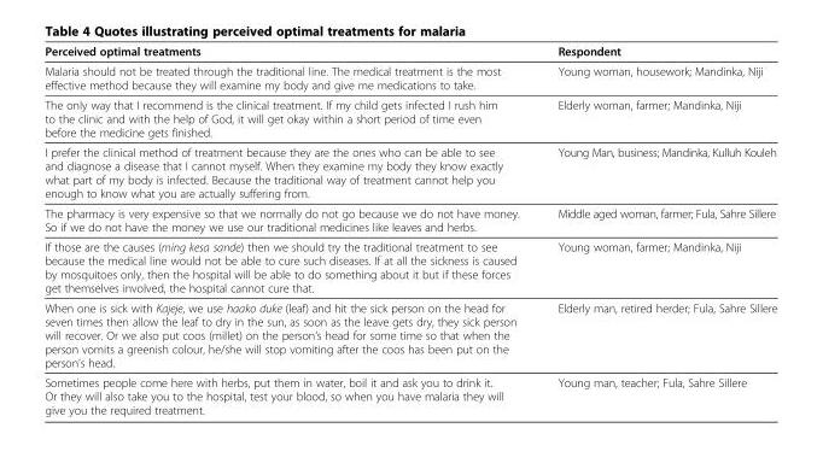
<table><thead><tr><td>Perceived optimal treatments</td><td>Respondent</td></tr></thead><tbody><tr><td>Malaria should not be treated through the traditional line. The medical treatment is the most effective method because they will examine my body and give me medications to take.</td><td>Young woman, housework; Mandinka, Niji</td></tr><tr><td>The only way that I recommend is the clinical treatment. If my child gets infected I rush him to the clinic and with the help of God, it will get okay within a short period of time even before the medicine gets finished.</td><td>Elderly woman, farmer; Mandinka, Niji</td></tr><tr><td>I prefer the clinical method of treatment because they are the ones who can be able to see and diagnose a disease that I cannot myself. When they examine my body they know exactly what part of my body is infected. Because the traditional way of treatment cannot help you enough to know what you are actually suffering from.</td><td>Young Man, business; Mandinka, Kulluh Kouleh</td></tr><tr><td>The pharmacy is very expensive so that we normally do not go because we do not have money. So if we do not have the money we use our traditional medicines like leaves and herbs.</td><td>Middle aged woman, farmer; Fula, Sahre Sillere</td></tr><tr><td>If those are the causes (ming kesa sande) then we should try the traditional treatment to see because the medical line would not be able to cure such diseases. If at all the sickness is caused by mosquitoes only, then the hospital will be able to do something about it but if these forces get themselves involved, the hospital cannot cure that.</td><td>Young woman, farmer; Mandinka, Niji</td></tr><tr><td>When one is sick with Kajeje, we use haako duke (leaf) and hit the sick person on the head for seven times then allow the leaf to dry in the sun, as soon as the leave gets dry, they sick person will recover. Or we also put coos (millet) on the person’s head for some time so that when the person vomits a greenish colour, he/she will stop vomiting after the coos has been put on the person’s head.</td><td>Elderly man, retired herder; Fula, Sahre Sillere</td></tr><tr><td>Sometimes people come here with herbs, put them in water, boil it and ask you to drink it. Or they will also take you to the hospital, test your blood, so when you have malaria they will give you the required treatment.</td><td>Young man, teacher; Fula, Sahre Sillere</td></tr></tbody></table>